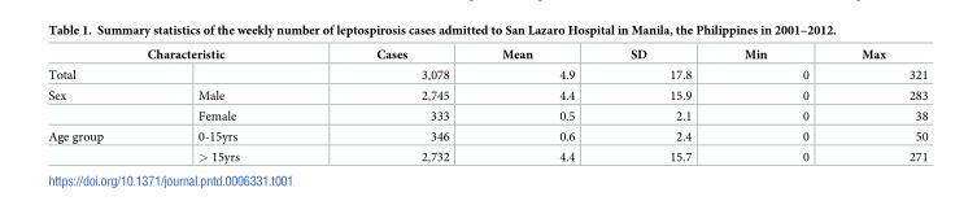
<table><thead><tr><td colspan="2">Characteristic</td><td rowspan="2">Cases 3,078</td><td rowspan="2">Mean 4.9</td><td rowspan="2">SD 17.8</td><td rowspan="2">Min 0</td><td rowspan="2">Max 321</td></tr><tr><td>Total</td><td></td></tr></thead><tbody><tr><td rowspan="2">Sex</td><td>Male</td><td>2,745</td><td>4.4</td><td>15.9</td><td>0</td><td>283</td></tr><tr><td>Female</td><td>333</td><td>0.5</td><td>2.1</td><td>0</td><td>38</td></tr><tr><td rowspan="2">Age group</td><td>0-15yrs</td><td>346</td><td>0.6</td><td>2.4</td><td>0</td><td>50</td></tr><tr><td>&gt; 15yrs</td><td>2,732</td><td>4.4</td><td>15.7</td><td>0</td><td>271</td></tr></tbody></table>